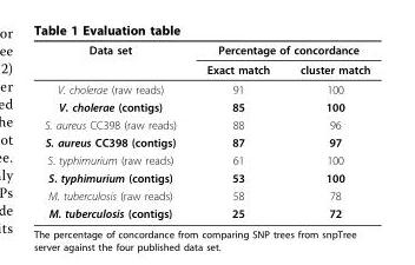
<table><thead><tr><td rowspan="2">Data set</td><td colspan="2">Percentage of concordance</td></tr><tr><td>Exact match</td><td>cluster match</td></tr></thead><tbody><tr><td>V. cholerae (raw reads)</td><td>91</td><td>100</td></tr><tr><td>V. cholerae (contigs)</td><td>85</td><td>100</td></tr><tr><td>S. aureus CC398 (raw reads)</td><td>88</td><td>96</td></tr><tr><td>S. aureus CC398 (contigs)</td><td>87</td><td>97</td></tr><tr><td>S. typhimurium (raw reads)</td><td>61</td><td>100</td></tr><tr><td>S. typhimurium (contigs)</td><td>53</td><td>100</td></tr><tr><td>M. tuberculosis (raw reads)</td><td>58</td><td>78</td></tr><tr><td>M. tuberculosis (contigs)</td><td>25</td><td>72</td></tr></tbody></table>